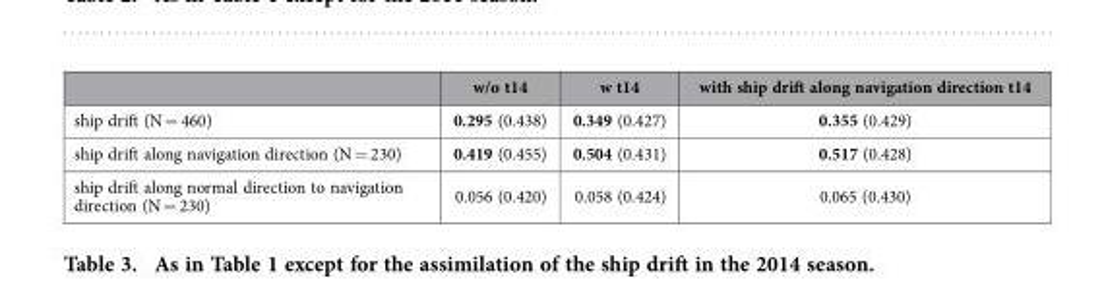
<table><thead><tr><td></td><td>w/o t14</td><td>w t14</td><td>with ship drift along navigation direction t14</td></tr></thead><tbody><tr><td>ship drift (N = 460)</td><td>0.295 (0.438)</td><td>0.349 (0.427)</td><td>0.355 (0.429)</td></tr><tr><td>ship drift along navigation direction (N = 230)</td><td>0.419 (0.455)</td><td>0.504 (0.431)</td><td>0.517 (0.428)</td></tr><tr><td>ship drift along normal direction to navigation direction (N = 230)</td><td>0.056 (0.420)</td><td>0.058 (0.424)</td><td>0.065 (0.430)</td></tr></tbody></table>